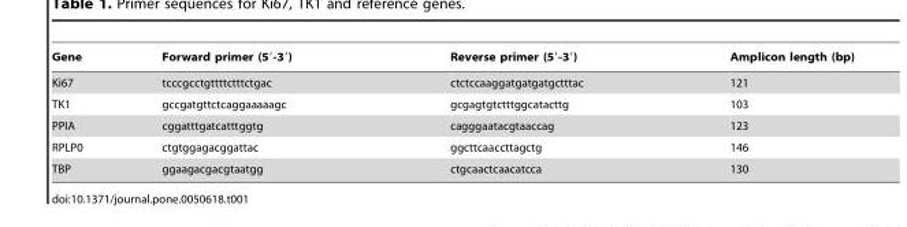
<table><thead><tr><td>Gene</td><td>Forward primer (5′-3′)</td><td>Reverse primer (5′-3′)</td><td>Amplicon length (bp)</td></tr></thead><tbody><tr><td>Ki67</td><td>tcccgcctgttttctttctgac</td><td>ctctccaaggatgatgatgctttac</td><td>121</td></tr><tr><td>TK1</td><td>gccgatgttctcaggaaaaagc</td><td>gcgagtgtctttggcatacttg</td><td>103</td></tr><tr><td>PPIA</td><td>cggatttgatcatttggtg</td><td>cagggaatacgtaaccag</td><td>123</td></tr><tr><td>RPLP0</td><td>ctgtggagacggattac</td><td>ggcttcaaccttagctg</td><td>146</td></tr><tr><td>TBP</td><td>ggaagacgacgtaatgg</td><td>ctgcaactcaacatcca</td><td>130</td></tr></tbody></table>